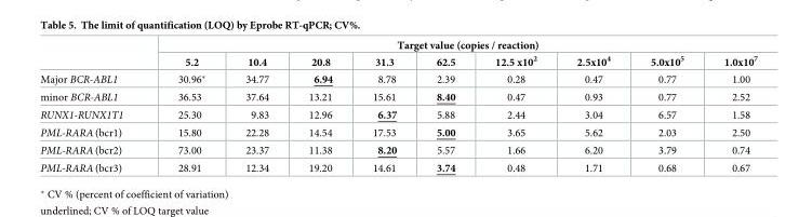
<table><thead><tr><td rowspan="2"></td><td colspan="9">Target value (copies / reaction)</td></tr><tr><td>5.2</td><td>10.4</td><td>20.8</td><td>31.3</td><td>62.5</td><td>12.5 x10<sup>2</sup></td><td>2.5x10<sup>4</sup></td><td>5.0x10<sup>5</sup></td><td>1.0x10<sup>7</sup></td></tr></thead><tbody><tr><td>Major BCR-ABL1</td><td>30.96*</td><td>34.77</td><td>6.94</td><td>8.78</td><td>2.39</td><td>0.28</td><td>0.47</td><td>0.77</td><td>1.00</td></tr><tr><td>minor BCR-ABL1</td><td>36.53</td><td>37.64</td><td>13.21</td><td>15.61</td><td>8.40</td><td>0.47</td><td>0.93</td><td>0.77</td><td>2.52</td></tr><tr><td>RUNX1-RUNX1T1</td><td>25.30</td><td>9.83</td><td>12.96</td><td>6.37</td><td>5.88</td><td>2.44</td><td>3.04</td><td>6.57</td><td>1.58</td></tr><tr><td>PML-RARA (bcr1)</td><td>15.80</td><td>22.28</td><td>14.54</td><td>17.53</td><td>5.00</td><td>3.65</td><td>5.62</td><td>2.03</td><td>2.50</td></tr><tr><td>PML-RARA (bcr2)</td><td>73.00</td><td>23.37</td><td>11.38</td><td>8.20</td><td>5.57</td><td>1.66</td><td>6.20</td><td>3.79</td><td>0.74</td></tr><tr><td>PML-RARA (bcr3)</td><td>28.91</td><td>12.34</td><td>19.20</td><td>14.61</td><td>3.74</td><td>0.48</td><td>1.71</td><td>0.68</td><td>0.67</td></tr></tbody></table>